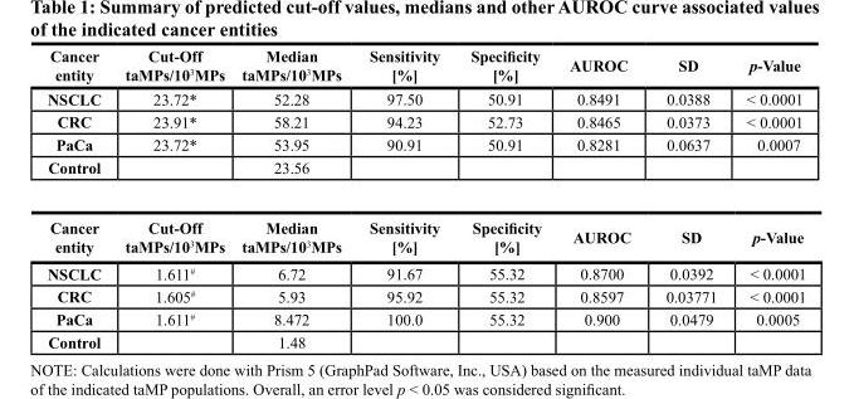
<table><thead><tr><td>Cancer entity</td><td>Cut-Off taMPs/10<sup>3</sup>MPs</td><td>Median taMPs/10<sup>3</sup>MPs</td><td>Sensitivity [%]</td><td>Specificity [%]</td><td>AUROC</td><td>SD</td><td>p-Value</td></tr></thead><tbody><tr><td>NSCLC</td><td>23.72*</td><td>52.28</td><td>97.50</td><td>50.91</td><td>0.8491</td><td>0.0388</td><td>&lt; 0.0001</td></tr><tr><td>CRC</td><td>23.91*</td><td>58.21</td><td>94.23</td><td>52.73</td><td>0.8465</td><td>0.0373</td><td>&lt; 0.0001</td></tr><tr><td>PaCa</td><td>23.72*</td><td>53.95</td><td>90.91</td><td>50.91</td><td>0.8281</td><td>0.0637</td><td>0.0007</td></tr><tr><td>Control</td><td></td><td>23.56</td><td></td><td></td><td></td><td></td><td></td></tr><tr><td>Cancer entity</td><td>Cut-Off taMPs/10<sup>3</sup>MPs</td><td>Median taMPs/10<sup>3</sup>MPs</td><td>Sensitivity [%]</td><td>Specificity [%]</td><td>AUROC</td><td>SD</td><td>p-Value</td></tr><tr><td>NSCLC</td><td>1.611<sup>#</sup></td><td>6.72</td><td>91.67</td><td>55.32</td><td>0.8700</td><td>0.0392</td><td>&lt; 0.0001</td></tr><tr><td>CRC</td><td>1.605<sup>#</sup></td><td>5.93</td><td>95.92</td><td>55.32</td><td>0.8597</td><td>0.03771</td><td>&lt; 0.0001</td></tr><tr><td>PaCa</td><td>1.611<sup>#</sup></td><td>8.472</td><td>100.0</td><td>55.32</td><td>0.900</td><td>0.0479</td><td>0.0005</td></tr><tr><td>Control</td><td></td><td>1.48</td><td></td><td></td><td></td><td></td><td></td></tr></tbody></table>